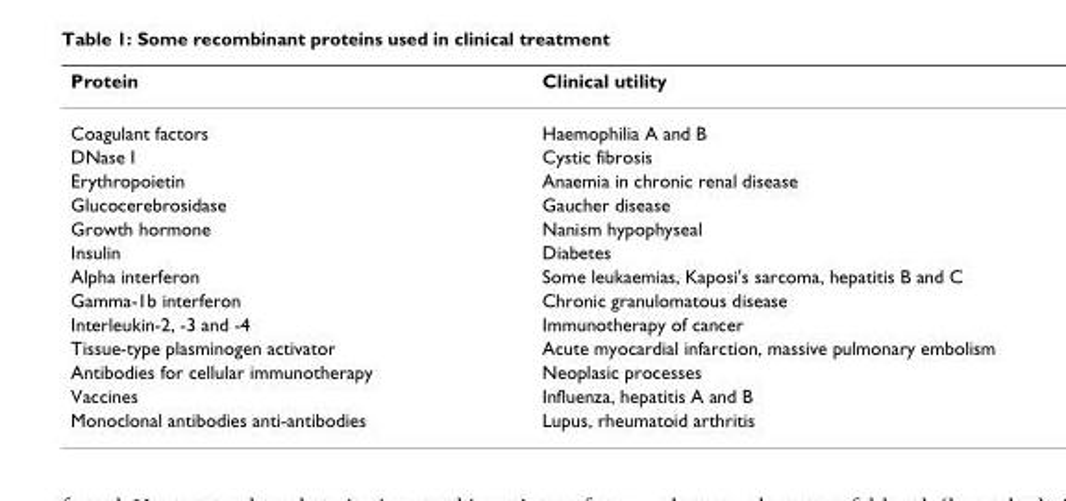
<table><thead><tr><td>Protein</td><td>Clinical utility</td></tr></thead><tbody><tr><td>Coagulant factors</td><td>Haemophilia A and B</td></tr><tr><td>DNase I</td><td>Cystic fibrosis</td></tr><tr><td>Erythropoietin</td><td>Anaemia in chronic renal disease</td></tr><tr><td>Glucocerebrosidase</td><td>Gaucher disease</td></tr><tr><td>Growth hormone</td><td>Nanism hypophyseal</td></tr><tr><td>Insulin</td><td>Diabetes</td></tr><tr><td>Alpha interferon</td><td>Some leukaemias, Kaposi&#x27;s sarcoma, hepatitis B and C</td></tr><tr><td>Gamma-1b interferon</td><td>Chronic granulomatous disease</td></tr><tr><td>Interleukin-2, -3 and -4</td><td>Immunotherapy of cancer</td></tr><tr><td>Tissue-type plasminogen activator</td><td>Acute myocardial infarction, massive pulmonary embolism</td></tr><tr><td>Antibodies for cellular immunotherapy</td><td>Neoplasic processes</td></tr><tr><td>Vaccines</td><td>Influenza, hepatitis A and B</td></tr><tr><td>Monoclonal antibodies anti-antibodies</td><td>Lupus, rheumatoid arthritis</td></tr></tbody></table>